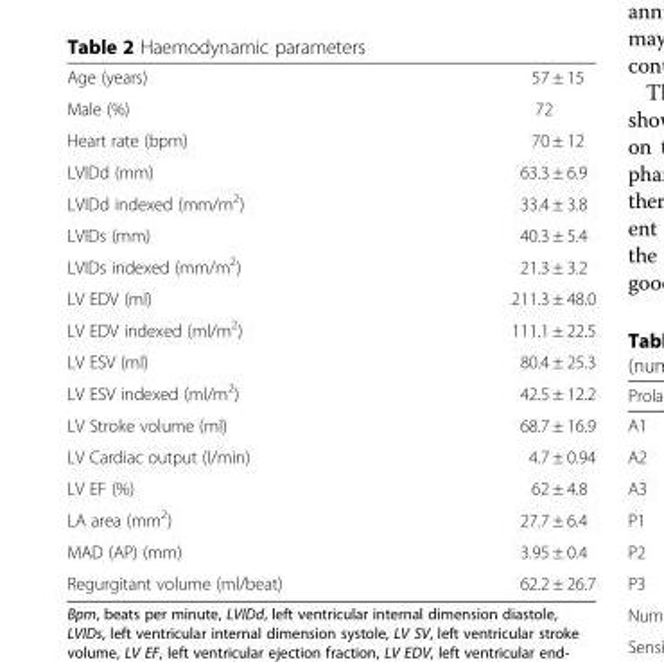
<table><tbody><tr><td>Age (years)</td><td>57 ± 15</td></tr><tr><td>Male (%)</td><td>72</td></tr><tr><td>Heart rate (bpm)</td><td>70 ± 12</td></tr><tr><td>LVIDd (mm)</td><td>63.3 ± 6.9</td></tr><tr><td>LVIDd indexed (mm/m<sup>2</sup>)</td><td>33.4 ± 3.8</td></tr><tr><td>LVIDs (mm)</td><td>40.3 ± 5.4</td></tr><tr><td>LVIDs indexed (mm/m<sup>2</sup>)</td><td>21.3 ± 3.2</td></tr><tr><td>LV EDV (ml)</td><td>211.3 ± 48.0</td></tr><tr><td>LV EDV indexed (ml/m<sup>2</sup>)</td><td>111.1 ± 22.5</td></tr><tr><td>LV ESV (ml)</td><td>80.4 ± 25.3</td></tr><tr><td>LV ESV indexed (ml/m<sup>2</sup>)</td><td>42.5 ± 12.2</td></tr><tr><td>LV Stroke volume (ml)</td><td>68.7 ± 16.9</td></tr><tr><td>LV Cardiac output (l/min)</td><td>4.7 ± 0.94</td></tr><tr><td>LV EF (%)</td><td>62 ± 4.8</td></tr><tr><td>LA area (mm<sup>2</sup>)</td><td>27.7 ± 6.4</td></tr><tr><td>MAD (AP) (mm)</td><td>3.95 ± 0.4</td></tr><tr><td>Regurgitant volume (ml/beat)</td><td>62.2 ± 26.7</td></tr></tbody></table>